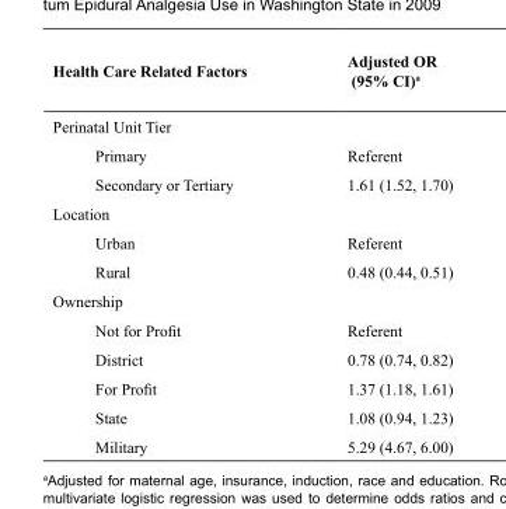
<table><thead><tr><td>Health Care Related Factors</td><td>Adjusted OR (95% CI)<sup>a</sup></td></tr></thead><tbody><tr><td colspan="2">Perinatal Unit Tier</td></tr><tr><td>Primary</td><td>Referent</td></tr><tr><td>Secondary or Tertiary</td><td>1.61 (1.52, 1.70)</td></tr><tr><td colspan="2">Location</td></tr><tr><td>Urban</td><td>Referent</td></tr><tr><td>Rural</td><td>0.48 (0.44, 0.51)</td></tr><tr><td colspan="2">Ownership</td></tr><tr><td>Not for Profit</td><td>Referent</td></tr><tr><td>District</td><td>0.78 (0.74, 0.82)</td></tr><tr><td>For Profit</td><td>1.37 (1.18, 1.61)</td></tr><tr><td>State</td><td>1.08 (0.94, 1.23)</td></tr><tr><td>Military</td><td>5.29 (4.67, 6.00)</td></tr></tbody></table>